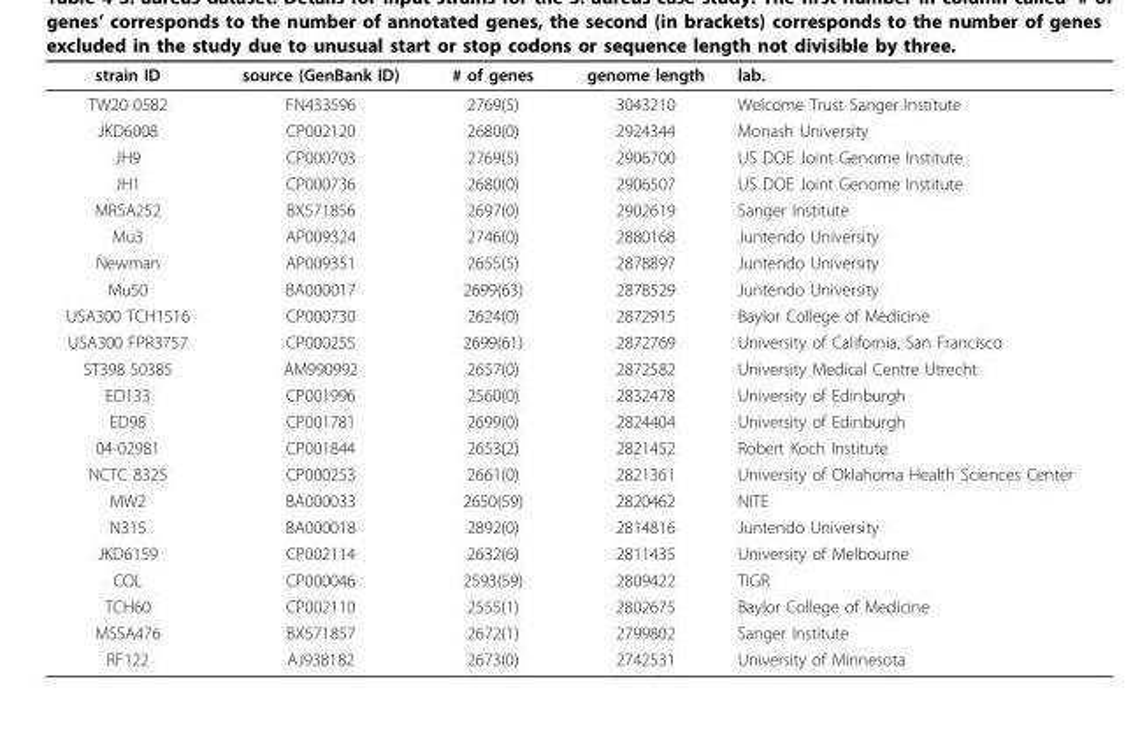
<table><thead><tr><td>strain ID</td><td>source (GenBank ID)</td><td># of genes</td><td>genome length</td><td>lab.</td></tr></thead><tbody><tr><td>TW20 0582</td><td>FN433596</td><td>2769(5)</td><td>3043210</td><td>Welcome Trust Sanger Institute</td></tr><tr><td>JKD6008</td><td>CP002120</td><td>2680(0)</td><td>2924344</td><td>Monash University</td></tr><tr><td>JH9</td><td>CP000703</td><td>2769(5)</td><td>2906700</td><td>US DOE Joint Genome Institute</td></tr><tr><td>JH1</td><td>CP000736</td><td>2680(0)</td><td>2906507</td><td>US DOE Joint Genome Institute</td></tr><tr><td>MRSA252</td><td>BX571856</td><td>2697(0)</td><td>2902619</td><td>Sanger Institute</td></tr><tr><td>Mu3</td><td>AP009324</td><td>2746(0)</td><td>2880168</td><td>Juntendo University</td></tr><tr><td>Newman</td><td>AP009351</td><td>2655(5)</td><td>2878897</td><td>Juntendo University</td></tr><tr><td>Mu50</td><td>BA000017</td><td>2699(63)</td><td>2878529</td><td>Juntendo University</td></tr><tr><td>USA300 TCH1516</td><td>CP000730</td><td>2624(0)</td><td>2872915</td><td>Baylor College of Medicine</td></tr><tr><td>USA300 FPR3757</td><td>CP000255</td><td>2699(61)</td><td>2872769</td><td>University of California, San Francisco</td></tr><tr><td>ST398 S0385</td><td>AM990992</td><td>2657(0)</td><td>2872582</td><td>University Medical Centre Utrecht</td></tr><tr><td>ED133</td><td>CP001996</td><td>2560(0)</td><td>2832478</td><td>University of Edinburgh</td></tr><tr><td>ED98</td><td>CP001781</td><td>2699(0)</td><td>2824404</td><td>University of Edinburgh</td></tr><tr><td>04-02981</td><td>CP001844</td><td>2653(2)</td><td>2821452</td><td>Robert Koch Institute</td></tr><tr><td>NCTC 8325</td><td>CP000253</td><td>2661(0)</td><td>2821361</td><td>University of Oklahoma Health Sciences Center</td></tr><tr><td>MW2</td><td>BA000033</td><td>2650(59)</td><td>2820462</td><td>NITE</td></tr><tr><td>N315</td><td>BA000018</td><td>2892(0)</td><td>2814816</td><td>Juntendo University</td></tr><tr><td>JKD6159</td><td>CP002114</td><td>2632(6)</td><td>2811435</td><td>University of Melbourne</td></tr><tr><td>COL</td><td>CP000046</td><td>2593(59)</td><td>2809422</td><td>TIGR</td></tr><tr><td>TCH60</td><td>CP002110</td><td>2555(1)</td><td>2802675</td><td>Baylor College of Medicine</td></tr><tr><td>MSSA476</td><td>BX571857</td><td>2672(1)</td><td>2799802</td><td>Sanger Institute</td></tr><tr><td>RF122</td><td>AJ938182</td><td>2673(0)</td><td>2742531</td><td>University of Minnesota</td></tr></tbody></table>